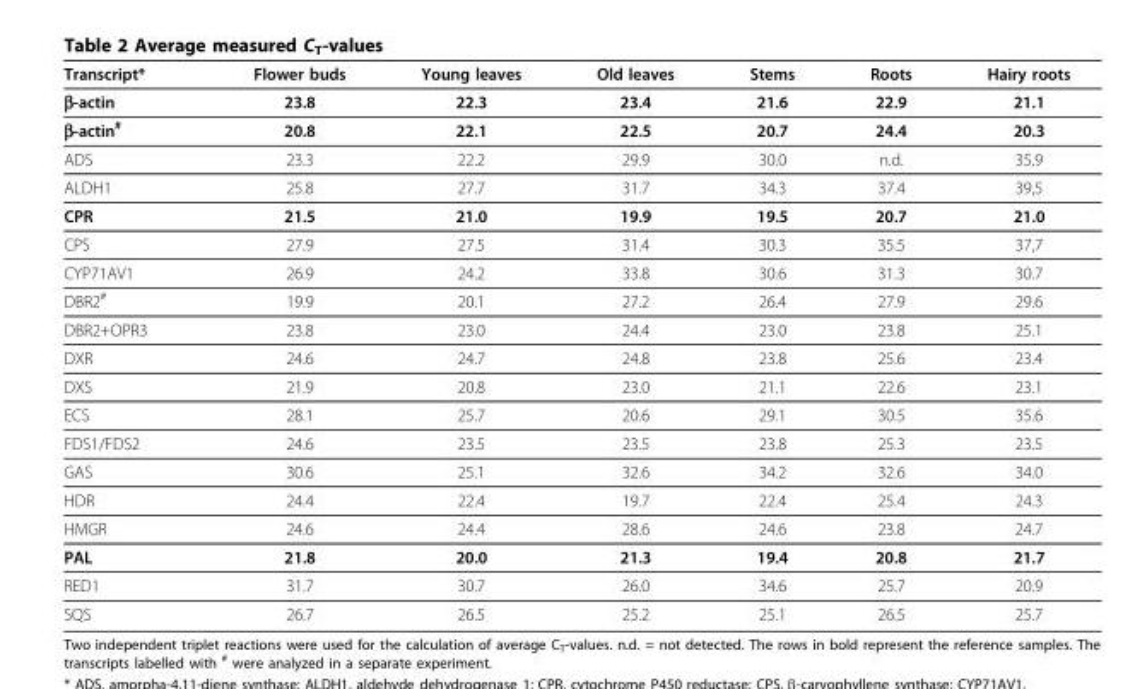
<table><thead><tr><td>Transcript*</td><td>Flower buds</td><td>Young leaves</td><td>Old leaves</td><td>Stems</td><td>Roots</td><td>Hairy roots</td></tr></thead><tbody><tr><td>β-actin</td><td>23.8</td><td>22.3</td><td>23.4</td><td>21.6</td><td>22.9</td><td>21.1</td></tr><tr><td>β-actin<sup>#</sup></td><td>20.8</td><td>22.1</td><td>22.5</td><td>20.7</td><td>24.4</td><td>20.3</td></tr><tr><td>ADS</td><td>23.3</td><td>22.2</td><td>29.9</td><td>30.0</td><td>n.d.</td><td>35.9</td></tr><tr><td>ALDH1</td><td>25.8</td><td>27.7</td><td>31.7</td><td>34.3</td><td>37.4</td><td>39,5</td></tr><tr><td>CPR</td><td>21.5</td><td>21.0</td><td>19.9</td><td>19.5</td><td>20.7</td><td>21.0</td></tr><tr><td>CPS</td><td>27.9</td><td>27.5</td><td>31.4</td><td>30.3</td><td>35.5</td><td>37,7</td></tr><tr><td>CYP71AV1</td><td>26.9</td><td>24.2</td><td>33.8</td><td>30.6</td><td>31.3</td><td>30.7</td></tr><tr><td>DBR2<sup>#</sup></td><td>19.9</td><td>20.1</td><td>27.2</td><td>26.4</td><td>27.9</td><td>29.6</td></tr><tr><td>DBR2+OPR3</td><td>23.8</td><td>23.0</td><td>24.4</td><td>23.0</td><td>23.8</td><td>25.1</td></tr><tr><td>DXR</td><td>24.6</td><td>24.7</td><td>24.8</td><td>23.8</td><td>25.6</td><td>23.4</td></tr><tr><td>DXS</td><td>21.9</td><td>20.8</td><td>23.0</td><td>21.1</td><td>22.6</td><td>23.1</td></tr><tr><td>ECS</td><td>28.1</td><td>25.7</td><td>20.6</td><td>29.1</td><td>30.5</td><td>35.6</td></tr><tr><td>FDS1/FDS2</td><td>24.6</td><td>23.5</td><td>23.5</td><td>23.8</td><td>25.3</td><td>23.5</td></tr><tr><td>GAS</td><td>30.6</td><td>25.1</td><td>32.6</td><td>34.2</td><td>32.6</td><td>34.0</td></tr><tr><td>HDR</td><td>24.4</td><td>22.4</td><td>19.7</td><td>22.4</td><td>25.4</td><td>24.3</td></tr><tr><td>HMGR</td><td>24.6</td><td>24.4</td><td>28.6</td><td>24.6</td><td>23.8</td><td>24.7</td></tr><tr><td>PAL</td><td>21.8</td><td>20.0</td><td>21.3</td><td>19.4</td><td>20.8</td><td>21.7</td></tr><tr><td>RED1</td><td>31.7</td><td>30.7</td><td>26.0</td><td>34.6</td><td>25.7</td><td>20.9</td></tr><tr><td>SQS</td><td>26.7</td><td>26.5</td><td>25.2</td><td>25.1</td><td>26.5</td><td>25.7</td></tr></tbody></table>